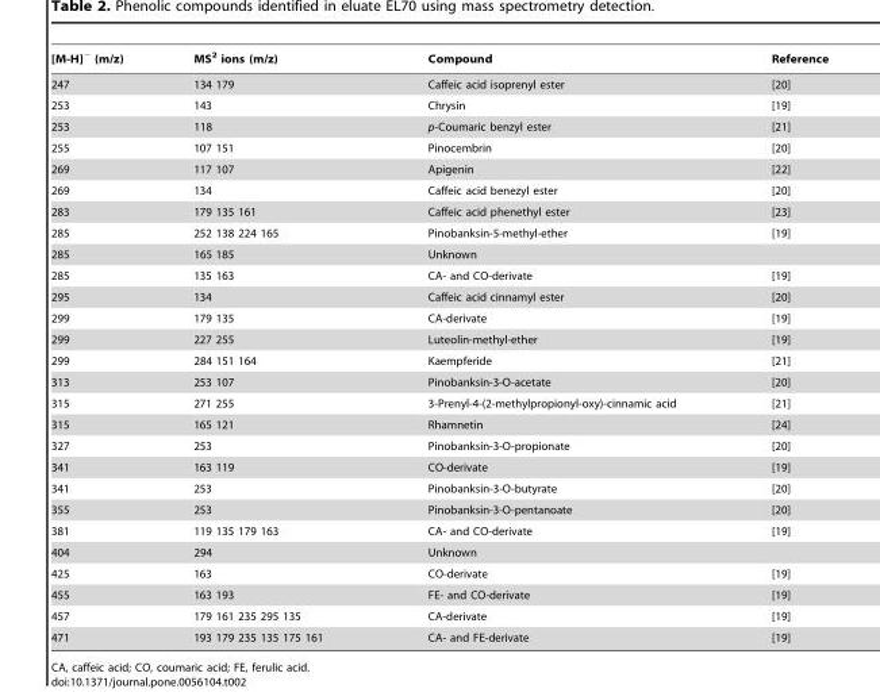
<table><thead><tr><td>[M-H]<sup>−</sup> (m/z)</td><td>MS<sup>2</sup> ions (m/z)</td><td>Compound</td><td>Reference</td></tr></thead><tbody><tr><td>247</td><td>134 179</td><td>Caffeic acid isoprenyl ester</td><td>[20]</td></tr><tr><td>253</td><td>143</td><td>Chrysin</td><td>[19]</td></tr><tr><td>253</td><td>118</td><td>p-Coumaric benzyl ester</td><td>[21]</td></tr><tr><td>255</td><td>107 151</td><td>Pinocembrin</td><td>[20]</td></tr><tr><td>269</td><td>117 107</td><td>Apigenin</td><td>[22]</td></tr><tr><td>269</td><td>134</td><td>Caffeic acid benezyl ester</td><td>[20]</td></tr><tr><td>283</td><td>179 135 161</td><td>Caffeic acid phenethyl ester</td><td>[23]</td></tr><tr><td>285</td><td>252 138 224 165</td><td>Pinobanksin-5-methyl-ether</td><td>[19]</td></tr><tr><td>285</td><td>165 185</td><td>Unknown</td><td></td></tr><tr><td>285</td><td>135 163</td><td>CA- and CO-derivate</td><td>[19]</td></tr><tr><td>295</td><td>134</td><td>Caffeic acid cinnamyl ester</td><td>[20]</td></tr><tr><td>299</td><td>179 135</td><td>CA-derivate</td><td>[19]</td></tr><tr><td>299</td><td>227 255</td><td>Luteolin-methyl-ether</td><td>[19]</td></tr><tr><td>299</td><td>284 151 164</td><td>Kaempferide</td><td>[21]</td></tr><tr><td>313</td><td>253 107</td><td>Pinobanksin-3-O-acetate</td><td>[20]</td></tr><tr><td>315</td><td>271 255</td><td>3-Prenyl-4-(2-methylpropionyl-oxy)-cinnamic acid</td><td>[21]</td></tr><tr><td>315</td><td>165 121</td><td>Rhamnetin</td><td>[24]</td></tr><tr><td>327</td><td>253</td><td>Pinobanksin-3-O-propionate</td><td>[20]</td></tr><tr><td>341</td><td>163 119</td><td>CO-derivate</td><td>[19]</td></tr><tr><td>341</td><td>253</td><td>Pinobanksin-3-O-butyrate</td><td>[20]</td></tr><tr><td>355</td><td>253</td><td>Pinobanksin-3-O-pentanoate</td><td>[20]</td></tr><tr><td>381</td><td>119 135 179 163</td><td>CA- and CO-derivate</td><td>[19]</td></tr><tr><td>404</td><td>294</td><td>Unknown</td><td></td></tr><tr><td>425</td><td>163</td><td>CO-derivate</td><td>[19]</td></tr><tr><td>455</td><td>163 193</td><td>FE- and CO-derivate</td><td>[19]</td></tr><tr><td>457</td><td>179 161 235 295 135</td><td>CA-derivate</td><td>[19]</td></tr><tr><td>471</td><td>193 179 235 135 175 161</td><td>CA- and FE-derivate</td><td>[19]</td></tr></tbody></table>